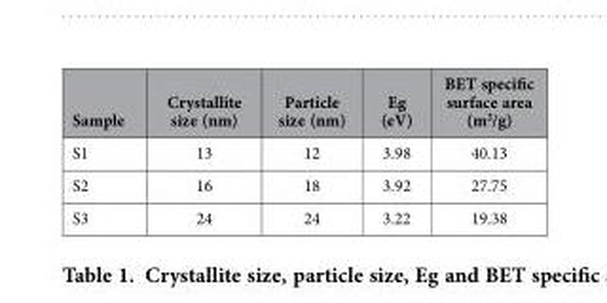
<table><thead><tr><td>Sample</td><td>Crystallite size (nm)</td><td>Particle size (nm)</td><td>Eg (eV)</td><td>BET specific surface area (m<sup>2</sup>/g)</td></tr></thead><tbody><tr><td>S1</td><td>13</td><td>12</td><td>3.98</td><td>40.13</td></tr><tr><td>S2</td><td>16</td><td>18</td><td>3.92</td><td>27.75</td></tr><tr><td>S3</td><td>24</td><td>24</td><td>3.22</td><td>19.38</td></tr></tbody></table>